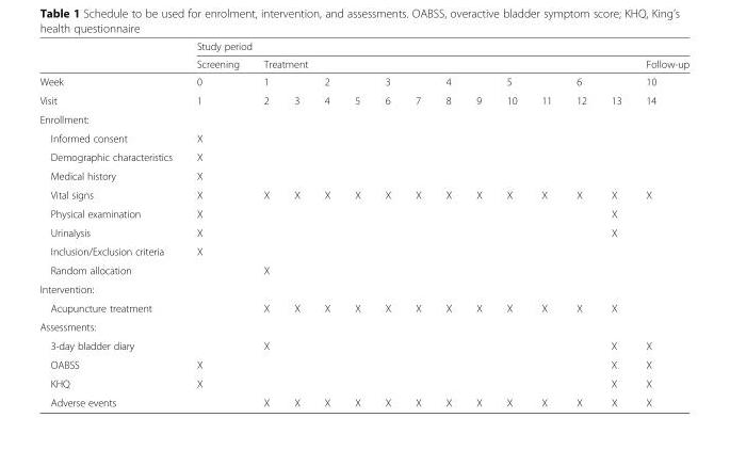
<table><thead><tr><td rowspan="4">Week Visit</td><td colspan="14">Study period</td></tr><tr><td rowspan="3">Screening 0 1</td><td colspan="12">Treatment</td><td rowspan="3">Follow-up 10 14</td></tr><tr><td colspan="2">1</td><td colspan="2">2</td><td colspan="2">3</td><td colspan="2">4</td><td colspan="2">5</td><td colspan="2">6</td></tr><tr><td>2</td><td>3</td><td>4</td><td>5</td><td>6</td><td>7</td><td>8</td><td>9</td><td>10</td><td>11</td><td>12</td><td>13</td></tr></thead><tbody><tr><td colspan="15">Enrollment:</td></tr><tr><td>Informed consent</td><td>X</td><td></td><td></td><td></td><td></td><td></td><td></td><td></td><td></td><td></td><td></td><td></td><td></td><td></td></tr><tr><td>Demographic characteristics</td><td>X</td><td></td><td></td><td></td><td></td><td></td><td></td><td></td><td></td><td></td><td></td><td></td><td></td><td></td></tr><tr><td>Medical history</td><td>X</td><td></td><td></td><td></td><td></td><td></td><td></td><td></td><td></td><td></td><td></td><td></td><td></td><td></td></tr><tr><td>Vital signs</td><td>X</td><td>X</td><td>X</td><td>X</td><td>X</td><td>X</td><td>X</td><td>X</td><td>X</td><td>X</td><td>X</td><td>X</td><td>X</td><td>X</td></tr><tr><td>Physical examination</td><td>X</td><td></td><td></td><td></td><td></td><td></td><td></td><td></td><td></td><td></td><td></td><td></td><td>X</td><td></td></tr><tr><td>Urinalysis</td><td>X</td><td></td><td></td><td></td><td></td><td></td><td></td><td></td><td></td><td></td><td></td><td></td><td>X</td><td></td></tr><tr><td>Inclusion/Exclusion criteria</td><td>X</td><td></td><td></td><td></td><td></td><td></td><td></td><td></td><td></td><td></td><td></td><td></td><td></td><td></td></tr><tr><td>Random allocation</td><td></td><td>X</td><td></td><td></td><td></td><td></td><td></td><td></td><td></td><td></td><td></td><td></td><td></td><td></td></tr><tr><td colspan="15">Intervention:</td></tr><tr><td>Acupuncture treatment</td><td></td><td>X</td><td>X</td><td>X</td><td>X</td><td>X</td><td>X</td><td>X</td><td>X</td><td>X</td><td>X</td><td>X</td><td>X</td><td></td></tr><tr><td colspan="15">Assessments:</td></tr><tr><td>3-day bladder diary</td><td></td><td>X</td><td></td><td></td><td></td><td></td><td></td><td></td><td></td><td></td><td></td><td></td><td>X</td><td>X</td></tr><tr><td>OABSS</td><td>X</td><td></td><td></td><td></td><td></td><td></td><td></td><td></td><td></td><td></td><td></td><td></td><td>X</td><td>X</td></tr><tr><td>KHQ</td><td>X</td><td></td><td></td><td></td><td></td><td></td><td></td><td></td><td></td><td></td><td></td><td></td><td>X</td><td>X</td></tr><tr><td>Adverse events</td><td></td><td>X</td><td>X</td><td>X</td><td>X</td><td>X</td><td>X</td><td>X</td><td>X</td><td>X</td><td>X</td><td>X</td><td>X</td><td>X</td></tr></tbody></table>